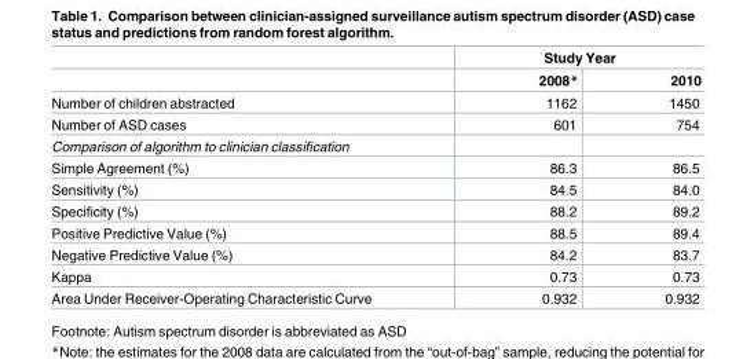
<table><thead><tr><td rowspan="2"></td><td colspan="2">Study Year</td></tr><tr><td>2008*</td><td>2010</td></tr></thead><tbody><tr><td>Number of children abstracted</td><td>1162</td><td>1450</td></tr><tr><td>Number of ASD cases</td><td>601</td><td>754</td></tr><tr><td colspan="3">Comparison of algorithm to clinician classification</td></tr><tr><td>Simple Agreement (%)</td><td>86.3</td><td>86.5</td></tr><tr><td>Sensitivity (%)</td><td>84.5</td><td>84.0</td></tr><tr><td>Specificity (%)</td><td>88.2</td><td>89.2</td></tr><tr><td>Positive Predictive Value (%)</td><td>88.5</td><td>89.4</td></tr><tr><td>Negative Predictive Value (%)</td><td>84.2</td><td>83.7</td></tr><tr><td>Kappa</td><td>0.73</td><td>0.73</td></tr><tr><td>Area Under Receiver-Operating Characteristic Curve</td><td>0.932</td><td>0.932</td></tr></tbody></table>